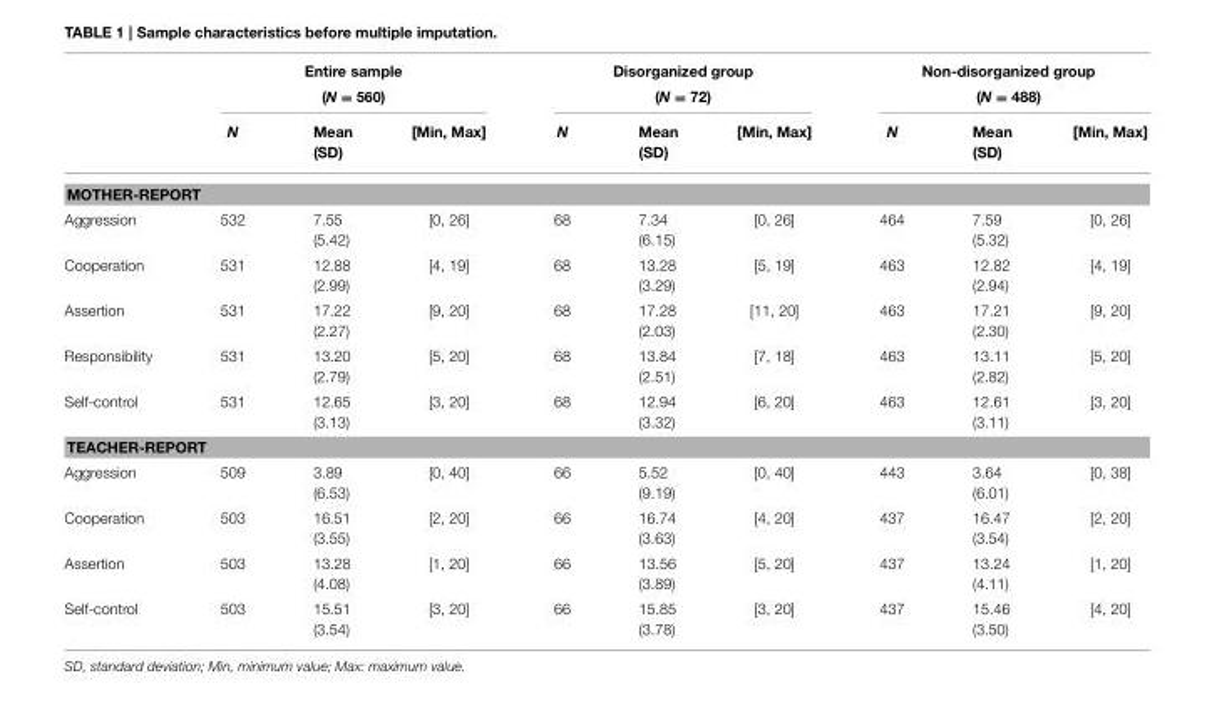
<table><thead><tr><td rowspan="2"></td><td colspan="3">Entire sample (N = 560)</td><td colspan="3">Disorganized group (N = 72)</td><td colspan="3">Non-disorganized group (N = 488)</td></tr><tr><td>N</td><td>Mean (SD)</td><td>[Min, Max]</td><td>N</td><td>Mean (SD)</td><td>[Min, Max]</td><td>N</td><td>Mean (SD)</td><td>[Min, Max]</td></tr></thead><tbody><tr><td colspan="10">MOTHER-REPORT</td></tr><tr><td>Aggression</td><td>532</td><td>7.55 (5.42)</td><td>[0, 26]</td><td>68</td><td>7.34 (6.15)</td><td>[0, 26]</td><td>464</td><td>7.59 (5.32)</td><td>[0, 26]</td></tr><tr><td>Cooperation</td><td>531</td><td>12.88 (2.99)</td><td>[4, 19]</td><td>68</td><td>13.28 (3.29)</td><td>[5, 19]</td><td>463</td><td>12.82 (2.94)</td><td>[4, 19]</td></tr><tr><td>Assertion</td><td>531</td><td>17.22 (2.27)</td><td>[9, 20]</td><td>68</td><td>17.28 (2.03)</td><td>[11, 20]</td><td>463</td><td>17.21 (2.30)</td><td>[9, 20]</td></tr><tr><td>Responsibility</td><td>531</td><td>13.20 (2.79)</td><td>[5, 20]</td><td>68</td><td>13.84 (2.51)</td><td>[7, 18]</td><td>463</td><td>13.11 (2.82)</td><td>[5, 20]</td></tr><tr><td>Self-control</td><td>531</td><td>12.65 (3.13)</td><td>[3, 20]</td><td>68</td><td>12.94 (3.32)</td><td>[6, 20]</td><td>463</td><td>12.61 (3.11)</td><td>[3, 20]</td></tr><tr><td colspan="10">TEACHER-REPORT</td></tr><tr><td>Aggression</td><td>509</td><td>3.89 (6.53)</td><td>[0, 40]</td><td>66</td><td>5.52 (9.19)</td><td>[0, 40]</td><td>443</td><td>3.64 (6.01)</td><td>[0, 38]</td></tr><tr><td>Cooperation</td><td>503</td><td>16.51 (3.55)</td><td>[2, 20]</td><td>66</td><td>16.74 (3.63)</td><td>[4, 20]</td><td>437</td><td>16.47 (3.54)</td><td>[2, 20]</td></tr><tr><td>Assertion</td><td>503</td><td>13.28 (4.08)</td><td>[1, 20]</td><td>66</td><td>13.56 (3.89)</td><td>[5, 20]</td><td>437</td><td>13.24 (4.11)</td><td>[1, 20]</td></tr><tr><td>Self-control</td><td>503</td><td>15.51 (3.54)</td><td>[3, 20]</td><td>66</td><td>15.85 (3.78)</td><td>[3, 20]</td><td>437</td><td>15.46 (3.50)</td><td>[4, 20]</td></tr></tbody></table>